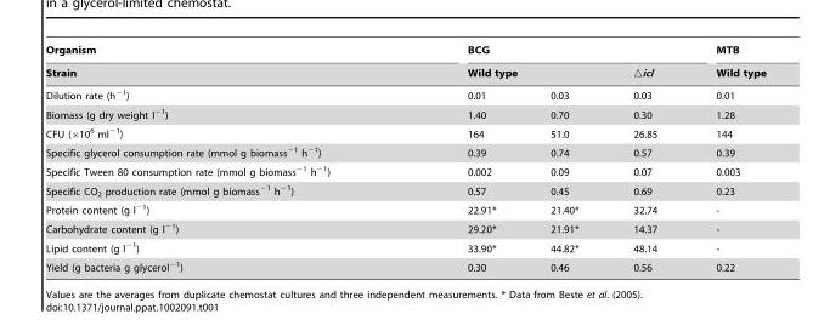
<table><thead><tr><td rowspan="3">Organism Strain Dilution rate (h<sup>−1</sup>)</td><td colspan="3">BCG</td><td rowspan="3">MTB Wild type 0.01</td></tr><tr><td colspan="2">Wild type</td><td rowspan="2">▵icl 0.03</td></tr><tr><td>0.01</td><td>0.03</td></tr></thead><tbody><tr><td>Biomass (g dry weight l<sup>−1</sup>)</td><td>1.40</td><td>0.70</td><td>0.30</td><td>1.28</td></tr><tr><td>CFU (×10<sup>6</sup> ml<sup>−1</sup>)</td><td>164</td><td>51.0</td><td>26.85</td><td>144</td></tr><tr><td>Specific glycerol consumption rate (mmol g biomass<sup>−1</sup> h<sup>−1</sup>)</td><td>0.39</td><td>0.74</td><td>0.57</td><td>0.39</td></tr><tr><td>Specific Tween 80 consumption rate (mmol g biomass<sup>−1</sup> h<sup>−1</sup>)</td><td>0.002</td><td>0.09</td><td>0.07</td><td>0.003</td></tr><tr><td>Specific CO<sub>2</sub> production rate (mmol g biomass<sup>−1</sup> h<sup>−1</sup>)</td><td>0.57</td><td>0.45</td><td>0.69</td><td>0.23</td></tr><tr><td>Protein content (g l<sup>−1</sup>)</td><td>22.91*</td><td>21.40*</td><td>32.74</td><td>-</td></tr><tr><td>Carbohydrate content (g l<sup>−1</sup>)</td><td>29.20*</td><td>21.91*</td><td>14.37</td><td>-</td></tr><tr><td>Lipid content (g l<sup>−1</sup>)</td><td>33.90*</td><td>44.82*</td><td>48.14</td><td>-</td></tr><tr><td>Yield (g bacteria g glycerol<sup>−1</sup>)</td><td>0.30</td><td>0.46</td><td>0.56</td><td>0.22</td></tr></tbody></table>